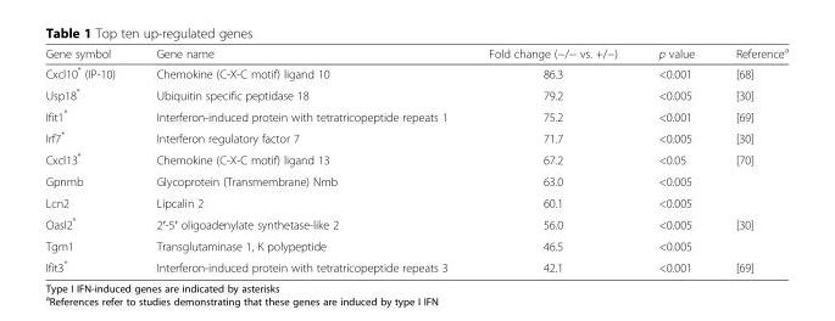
<table><thead><tr><td>Gene symbol</td><td>Gene name</td><td>Fold change (−/− vs. +/−)</td><td>p value</td><td>Reference<sup>a</sup></td></tr></thead><tbody><tr><td>Cxcl10* (IP-10)</td><td>Chemokine (C-X-C motif) ligand 10</td><td>86.3</td><td>&lt;0.001</td><td>[68]</td></tr><tr><td>Usp18*</td><td>Ubiquitin specific peptidase 18</td><td>79.2</td><td>&lt;0.005</td><td>[30]</td></tr><tr><td>Ifit1*</td><td>Interferon-induced protein with tetratricopeptide repeats 1</td><td>75.2</td><td>&lt;0.001</td><td>[69]</td></tr><tr><td>Irf7*</td><td>Interferon regulatory factor 7</td><td>71.7</td><td>&lt;0.005</td><td>[30]</td></tr><tr><td>Cxcl13*</td><td>Chemokine (C-X-C motif) ligand 13</td><td>67.2</td><td>&lt;0.05</td><td>[70]</td></tr><tr><td>Gpnmb</td><td>Glycoprotein (Transmembrane) Nmb</td><td>63.0</td><td>&lt;0.005</td><td></td></tr><tr><td>Lcn2</td><td>Lipcalin 2</td><td>60.1</td><td>&lt;0.005</td><td></td></tr><tr><td>Oasl2*</td><td>2′-5′ oligoadenylate synthetase-like 2</td><td>56.0</td><td>&lt;0.005</td><td>[30]</td></tr><tr><td>Tgm1</td><td>Transglutaminase 1, K polypeptide</td><td>46.5</td><td>&lt;0.005</td><td></td></tr><tr><td>Ifit3*</td><td>Interferon-induced protein with tetratricopeptide repeats 3</td><td>42.1</td><td>&lt;0.001</td><td>[69]</td></tr></tbody></table>